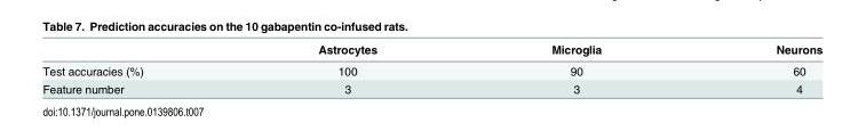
<table><thead><tr><td></td><td>Astrocytes</td><td>Microglia</td><td>Neurons</td></tr></thead><tbody><tr><td>Test accuracies (%)</td><td>100</td><td>90</td><td>60</td></tr><tr><td>Feature number</td><td>3</td><td>3</td><td>4</td></tr></tbody></table>